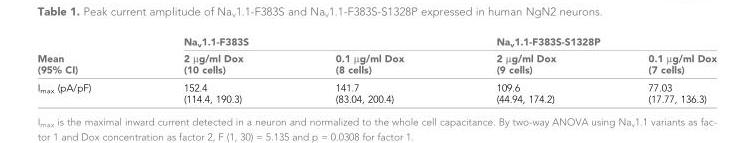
<table><thead><tr><td rowspan="2">Mean (95% CI)</td><td colspan="2">Na<sub>v</sub>1.1-F383S</td><td colspan="2">Na<sub>v</sub>1.1-F383S-S1328P</td></tr><tr><td>2 µg/ml Dox (10 cells)</td><td>0.1 µg/ml Dox (8 cells)</td><td>2 µg/ml Dox (9 cells)</td><td>0.1 µg/ml Dox (7 cells)</td></tr></thead><tbody><tr><td>I<sub>max</sub> (pA/pF)</td><td>152.4 (114.4, 190.3)</td><td>141.7 (83.04, 200.4)</td><td>109.6 (44.94, 174.2)</td><td>77.03 (17.77, 136.3)</td></tr></tbody></table>